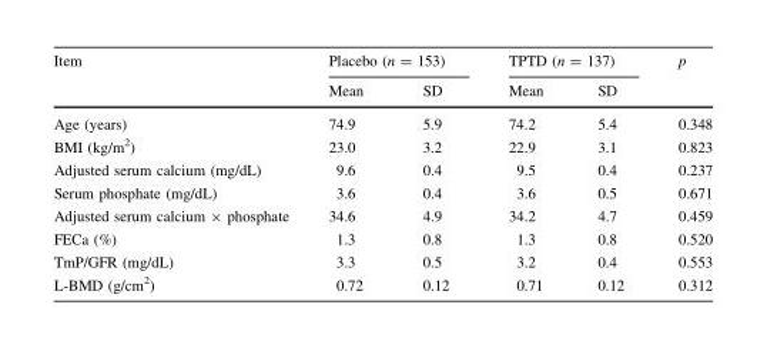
<table><thead><tr><td rowspan="2">Item</td><td colspan="2">Placebo (n = 153)</td><td colspan="2">TPTD (n = 137)</td><td rowspan="2">p</td></tr><tr><td>Mean</td><td>SD</td><td>Mean</td><td>SD</td></tr></thead><tbody><tr><td>Age (years)</td><td>74.9</td><td>5.9</td><td>74.2</td><td>5.4</td><td>0.348</td></tr><tr><td>BMI (kg/m<sup>2</sup>)</td><td>23.0</td><td>3.2</td><td>22.9</td><td>3.1</td><td>0.823</td></tr><tr><td>Adjusted serum calcium (mg/dL)</td><td>9.6</td><td>0.4</td><td>9.5</td><td>0.4</td><td>0.237</td></tr><tr><td>Serum phosphate (mg/dL)</td><td>3.6</td><td>0.4</td><td>3.6</td><td>0.5</td><td>0.671</td></tr><tr><td>Adjusted serum calcium × phosphate</td><td>34.6</td><td>4.9</td><td>34.2</td><td>4.7</td><td>0.459</td></tr><tr><td>FECa (%)</td><td>1.3</td><td>0.8</td><td>1.3</td><td>0.8</td><td>0.520</td></tr><tr><td>TmP/GFR (mg/dL)</td><td>3.3</td><td>0.5</td><td>3.2</td><td>0.4</td><td>0.553</td></tr><tr><td>L-BMD (g/cm<sup>2</sup>)</td><td>0.72</td><td>0.12</td><td>0.71</td><td>0.12</td><td>0.312</td></tr></tbody></table>